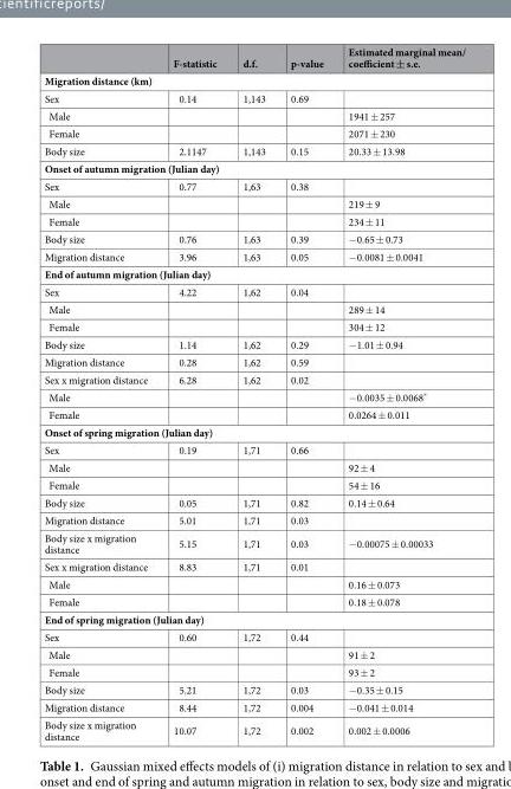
<table><thead><tr><td></td><td>F-statistic</td><td>d.f.</td><td>p-value</td><td>Estimated marginal mean/ coefficient ± s.e.</td></tr></thead><tbody><tr><td colspan="5">Migration distance (km)</td></tr><tr><td>Sex</td><td>0.14</td><td>1,143</td><td>0.69</td><td></td></tr><tr><td>Male</td><td></td><td></td><td></td><td>1941 ± 257</td></tr><tr><td>Female</td><td></td><td></td><td></td><td>2071 ± 230</td></tr><tr><td>Body size</td><td>2.1147</td><td>1,143</td><td>0.15</td><td>20.33 ± 13.98</td></tr><tr><td colspan="5">Onset of autumn migration (Julian day)</td></tr><tr><td>Sex</td><td>0.77</td><td>1,63</td><td>0.38</td><td></td></tr><tr><td>Male</td><td></td><td></td><td></td><td>219 ± 9</td></tr><tr><td>Female</td><td></td><td></td><td></td><td>234 ± 11</td></tr><tr><td>Body size</td><td>0.76</td><td>1,63</td><td>0.39</td><td>−0.65 ± 0.73</td></tr><tr><td>Migration distance</td><td>3.96</td><td>1,63</td><td>0.05</td><td>−0.0081 ± 0.0041</td></tr><tr><td colspan="5">End of autumn migration (Julian day)</td></tr><tr><td>Sex</td><td>4.22</td><td>1,62</td><td>0.04</td><td></td></tr><tr><td>Male</td><td></td><td></td><td></td><td>289 ± 14</td></tr><tr><td>Female</td><td></td><td></td><td></td><td>304 ± 12</td></tr><tr><td>Body size</td><td>1.14</td><td>1,62</td><td>0.29</td><td>−1.01 ± 0.94</td></tr><tr><td>Migration distance</td><td>0.28</td><td>1,62</td><td>0.59</td><td></td></tr><tr><td>Sex x migration distance</td><td>6.28</td><td>1,62</td><td>0.02</td><td></td></tr><tr><td>Male</td><td></td><td></td><td></td><td>−0.0035 ± 0.0068*</td></tr><tr><td>Female</td><td></td><td></td><td></td><td>0.0264 ± 0.011</td></tr><tr><td colspan="5">Onset of spring migration (Julian day)</td></tr><tr><td>Sex</td><td>0.19</td><td>1,71</td><td>0.66</td><td></td></tr><tr><td>Male</td><td></td><td></td><td></td><td>92 ± 4</td></tr><tr><td>Female</td><td></td><td></td><td></td><td>54 ± 16</td></tr><tr><td>Body size</td><td>0.05</td><td>1,71</td><td>0.82</td><td>0.14 ± 0.64</td></tr><tr><td>Migration distance</td><td>5.01</td><td>1,71</td><td>0.03</td><td></td></tr><tr><td>Body size x migration distance</td><td>5.15</td><td>1,71</td><td>0.03</td><td>−0.00075 ± 0.00033</td></tr><tr><td>Sex x migration distance</td><td>8.83</td><td>1,71</td><td>0.01</td><td></td></tr><tr><td>Male</td><td></td><td></td><td></td><td>0.16 ± 0.073</td></tr><tr><td>Female</td><td></td><td></td><td></td><td>0.18 ± 0.078</td></tr><tr><td colspan="5">End of spring migration (Julian day)</td></tr><tr><td>Sex</td><td>0.60</td><td>1,72</td><td>0.44</td><td></td></tr><tr><td>Male</td><td></td><td></td><td></td><td>91 ± 2</td></tr><tr><td>Female</td><td></td><td></td><td></td><td>93 ± 2</td></tr><tr><td>Body size</td><td>5.21</td><td>1,72</td><td>0.03</td><td>−0.35 ± 0.15</td></tr><tr><td>Migration distance</td><td>8.44</td><td>1,72</td><td>0.004</td><td>−0.041 ± 0.014</td></tr><tr><td>Body size x migration distance</td><td>10.07</td><td>1,72</td><td>0.002</td><td>0.002 ± 0.0006</td></tr></tbody></table>